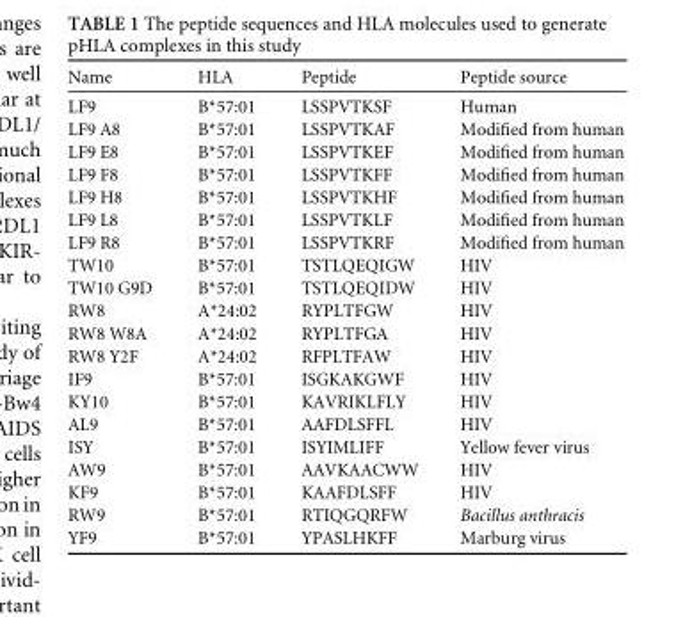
<table><thead><tr><td>Name</td><td>HLA</td><td>Peptide</td><td>Peptide source</td></tr></thead><tbody><tr><td>LF9</td><td>B*57:01</td><td>LSSPVTKSF</td><td>Human</td></tr><tr><td>LF9 A8</td><td>B*57:01</td><td>LSSPVTKAF</td><td>Modified from human</td></tr><tr><td>LF9 E8</td><td>B*57:01</td><td>LSSPVTKEF</td><td>Modified from human</td></tr><tr><td>LF9 F8</td><td>B*57:01</td><td>LSSPVTKFF</td><td>Modified from human</td></tr><tr><td>LF9 H8</td><td>B*57:01</td><td>LSSPVTKHF</td><td>Modified from human</td></tr><tr><td>LF9 L8</td><td>B*57:01</td><td>LSSPVTKLF</td><td>Modified from human</td></tr><tr><td>LF9 R8</td><td>B*57:01</td><td>LSSPVTKRF</td><td>Modified from human</td></tr><tr><td>TW10</td><td>B*57:01</td><td>TSTLQEQIGW</td><td>HIV</td></tr><tr><td>TW10 G9D</td><td>B*57:01</td><td>TSTLQEQIDW</td><td>HIV</td></tr><tr><td>RW8</td><td>A*24:02</td><td>RYPLTFGW</td><td>HIV</td></tr><tr><td>RW8 W8A</td><td>A*24:02</td><td>RYPLTFGA</td><td>HIV</td></tr><tr><td>RW8 Y2F</td><td>A*24:02</td><td>RFPLTFAW</td><td>HIV</td></tr><tr><td>IF9</td><td>B*57:01</td><td>ISGKAKGWF</td><td>HIV</td></tr><tr><td>KY10</td><td>B*57:01</td><td>KAVRIKLFLY</td><td>HIV</td></tr><tr><td>AL9</td><td>B*57:01</td><td>AAFDLSFFL</td><td>HIV</td></tr><tr><td>ISY</td><td>B*57:01</td><td>ISYIMLIFF</td><td>Yellow fever virus</td></tr><tr><td>AW9</td><td>B*57:01</td><td>AAVKAACWW</td><td>HIV</td></tr><tr><td>KF9</td><td>B*57:01</td><td>KAAFDLSFF</td><td>HIV</td></tr><tr><td>RW9</td><td>B*57:01</td><td>RTIQGQRFW</td><td>Bacillus anthracis</td></tr><tr><td>YF9</td><td>B*57:01</td><td>YPASLHKFF</td><td>Marburg virus</td></tr></tbody></table>